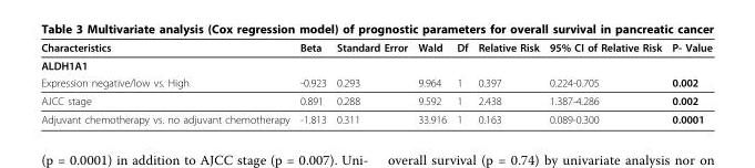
<table><thead><tr><td>Characteristics</td><td>Beta</td><td>Standard Error</td><td>Wald</td><td>Df</td><td>Relative Risk</td><td>95% CI of Relative Risk</td><td>P- Value</td></tr></thead><tbody><tr><td colspan="8">ALDH1A1</td></tr><tr><td>Expression negative/low vs. High</td><td>-0.923</td><td>0.293</td><td>9.964</td><td>1</td><td>0.397</td><td>0.224-0.705</td><td>0.002</td></tr><tr><td>AJCC stage</td><td>0.891</td><td>0.288</td><td>9.592</td><td>1</td><td>2.438</td><td>1.387-4.286</td><td>0.002</td></tr><tr><td>Adjuvant chemotherapy vs. no adjuvant chemotherapy</td><td>-1.813</td><td>0.311</td><td>33.916</td><td>1</td><td>0.163</td><td>0.089-0.300</td><td>0.0001</td></tr></tbody></table>